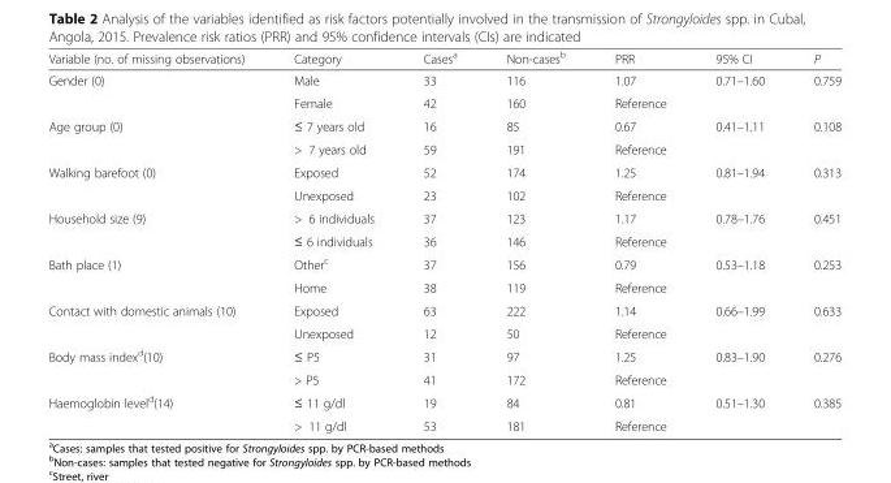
<table><thead><tr><td>Variable (no. of missing observations)</td><td>Category</td><td>Cases<sup>a</sup></td><td>Non-cases<sup>b</sup></td><td>PRR</td><td>95% CI</td><td>P</td></tr></thead><tbody><tr><td rowspan="2">Gender (0)</td><td>Male</td><td>33</td><td>116</td><td>1.07</td><td>0.71–1.60</td><td>0.759</td></tr><tr><td>Female</td><td>42</td><td>160</td><td>Reference</td><td></td><td></td></tr><tr><td rowspan="2">Age group (0)</td><td>≤ 7 years old</td><td>16</td><td>85</td><td>0.67</td><td>0.41–1.11</td><td>0.108</td></tr><tr><td>&gt; 7 years old</td><td>59</td><td>191</td><td>Reference</td><td></td><td></td></tr><tr><td rowspan="2">Walking barefoot (0)</td><td>Exposed</td><td>52</td><td>174</td><td>1.25</td><td>0.81–1.94</td><td>0.313</td></tr><tr><td>Unexposed</td><td>23</td><td>102</td><td>Reference</td><td></td><td></td></tr><tr><td rowspan="2">Household size (9)</td><td>&gt; 6 individuals</td><td>37</td><td>123</td><td>1.17</td><td>0.78–1.76</td><td>0.451</td></tr><tr><td>≤ 6 individuals</td><td>36</td><td>146</td><td>Reference</td><td></td><td></td></tr><tr><td rowspan="2">Bath place (1)</td><td>Other<sup>c</sup></td><td>37</td><td>156</td><td>0.79</td><td>0.53–1.18</td><td>0.253</td></tr><tr><td>Home</td><td>38</td><td>119</td><td>Reference</td><td></td><td></td></tr><tr><td rowspan="2">Contact with domestic animals (10)</td><td>Exposed</td><td>63</td><td>222</td><td>1.14</td><td>0.66–1.99</td><td>0.633</td></tr><tr><td>Unexposed</td><td>12</td><td>50</td><td>Reference</td><td></td><td></td></tr><tr><td rowspan="2">Body mass index<sup>d</sup>(10)</td><td>≤ P5</td><td>31</td><td>97</td><td>1.25</td><td>0.83–1.90</td><td>0.276</td></tr><tr><td>&gt; P5</td><td>41</td><td>172</td><td>Reference</td><td></td><td></td></tr><tr><td rowspan="2">Haemoglobin level<sup>d</sup>(14)</td><td>≤ 11 g/dl</td><td>19</td><td>84</td><td>0.81</td><td>0.51–1.30</td><td>0.385</td></tr><tr><td>&gt; 11 g/dl</td><td>53</td><td>181</td><td>Reference</td><td></td><td></td></tr></tbody></table>